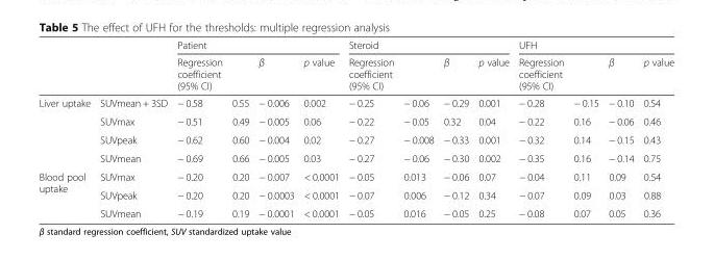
<table><thead><tr><td rowspan="2"></td><td rowspan="2"></td><td colspan="4">Patient</td><td colspan="4">Steroid</td><td colspan="4">UFH</td></tr><tr><td>Regression coefficient (95% CI)</td><td></td><td>β</td><td>p value</td><td>Regression coefficient (95% CI)</td><td></td><td>β</td><td>p value</td><td>Regression coefficient (95% CI)</td><td></td><td>β</td><td>p value</td></tr></thead><tbody><tr><td rowspan="4">Liver uptake</td><td>SUVmean + 3SD</td><td>− 0.58</td><td>0.55</td><td>− 0.006</td><td>0.002</td><td>− 0.25</td><td>− 0.06</td><td>− 0.29</td><td>0.001</td><td>− 0.28</td><td>− 0.15</td><td>− 0.10</td><td>0.54</td></tr><tr><td>SUVmax</td><td>− 0.51</td><td>0.49</td><td>− 0.005</td><td>0.06</td><td>− 0.22</td><td>− 0.05</td><td>0.32</td><td>0.04</td><td>− 0.22</td><td>0.16</td><td>− 0.06</td><td>0.46</td></tr><tr><td>SUVpeak</td><td>− 0.62</td><td>0.60</td><td>− 0.004</td><td>0.02</td><td>− 0.27</td><td>− 0.008</td><td>− 0.33</td><td>0.001</td><td>− 0.32</td><td>0.14</td><td>− 0.15</td><td>0.43</td></tr><tr><td>SUVmean</td><td>− 0.69</td><td>0.66</td><td>− 0.005</td><td>0.03</td><td>− 0.27</td><td>− 0.06</td><td>− 0.30</td><td>0.002</td><td>− 0.35</td><td>0.16</td><td>− 0.14</td><td>0.75</td></tr><tr><td rowspan="3">Blood pool uptake</td><td>SUVmax</td><td>− 0.20</td><td>0.20</td><td>− 0.007</td><td>&lt; 0.0001</td><td>− 0.05</td><td>0.013</td><td>− 0.06</td><td>0.07</td><td>− 0.04</td><td>0.11</td><td>0.09</td><td>0.54</td></tr><tr><td>SUVpeak</td><td>− 0.20</td><td>0.20</td><td>− 0.0003</td><td>&lt; 0.0001</td><td>− 0.07</td><td>0.006</td><td>− 0.12</td><td>0.34</td><td>− 0.07</td><td>0.09</td><td>0.03</td><td>0.88</td></tr><tr><td>SUVmean</td><td>− 0.19</td><td>0.19</td><td>− 0.0001</td><td>&lt; 0.0001</td><td>− 0.05</td><td>0.016</td><td>− 0.05</td><td>0.25</td><td>− 0.08</td><td>0.07</td><td>0.05</td><td>0.36</td></tr></tbody></table>